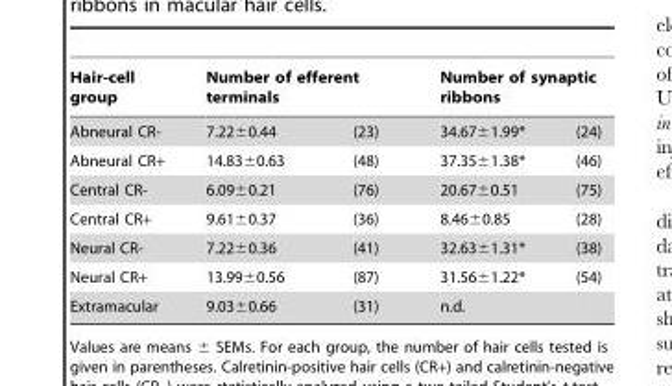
<table><thead><tr><td rowspan="2">Hair-cell group Abneural CR-</td><td colspan="2">Number of efferent terminals</td><td colspan="2">Number of synaptic ribbons</td></tr><tr><td>7.22±0.44</td><td>(23)</td><td>34.67±1.99*</td><td>(24)</td></tr></thead><tbody><tr><td>Abneural CR+</td><td>14.83±0.63</td><td>(48)</td><td>37.35±1.38*</td><td>(46)</td></tr><tr><td>Central CR-</td><td>6.09±0.21</td><td>(76)</td><td>20.67±0.51</td><td>(75)</td></tr><tr><td>Central CR+</td><td>9.61±0.37</td><td>(36)</td><td>8.46±0.85</td><td>(28)</td></tr><tr><td>Neural CR-</td><td>7.22±0.36</td><td>(41)</td><td>32.63±1.31*</td><td>(38)</td></tr><tr><td>Neural CR+</td><td>13.99±0.56</td><td>(87)</td><td>31.56±1.22*</td><td>(54)</td></tr><tr><td>Extramacular</td><td>9.03±0.66</td><td>(31)</td><td>n.d.</td><td></td></tr></tbody></table>